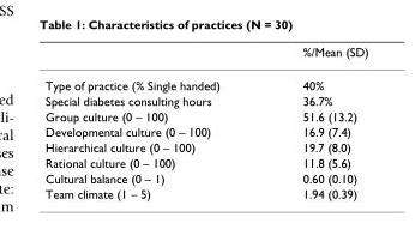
<table><thead><tr><td></td><td>%/Mean (SD)</td></tr></thead><tbody><tr><td>Type of practice (% Single handed)</td><td>40%</td></tr><tr><td>Special diabetes consulting hours</td><td>36.7%</td></tr><tr><td>Group culture (0 – 100)</td><td>51.6 (13.2)</td></tr><tr><td>Developmental culture (0 – 100)</td><td>16.9 (7.4)</td></tr><tr><td>Hierarchical culture (0 – 100)</td><td>19.7 (8.0)</td></tr><tr><td>Rational culture (0 – 100)</td><td>11.8 (5.6)</td></tr><tr><td>Cultural balance (0 – 1)</td><td>0.60 (0.10)</td></tr><tr><td>Team climate (1 – 5)</td><td>1.94 (0.39)</td></tr></tbody></table>